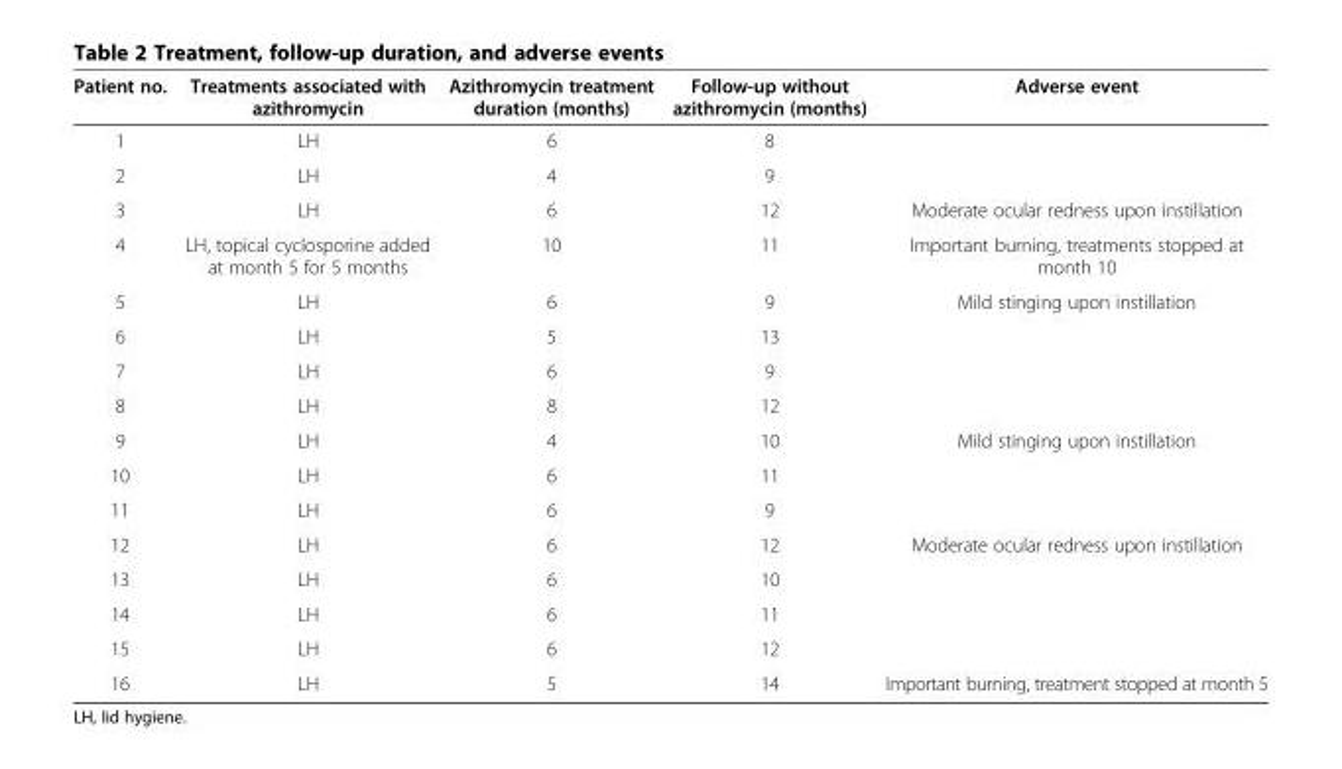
<table><thead><tr><td>Patient no.</td><td>Treatments associated with azithromycin</td><td>Azithromycin treatment duration (months)</td><td>Follow-up without azithromycin (months)</td><td>Adverse event</td></tr></thead><tbody><tr><td>1</td><td>LH</td><td>6</td><td>8</td><td></td></tr><tr><td>2</td><td>LH</td><td>4</td><td>9</td><td></td></tr><tr><td>3</td><td>LH</td><td>6</td><td>12</td><td>Moderate ocular redness upon instillation</td></tr><tr><td>4</td><td>LH, topical cyclosporine added at month 5 for 5 months</td><td>10</td><td>11</td><td>Important burning, treatments stopped at month 10</td></tr><tr><td>5</td><td>LH</td><td>6</td><td>9</td><td>Mild stinging upon instillation</td></tr><tr><td>6</td><td>LH</td><td>5</td><td>13</td><td></td></tr><tr><td>7</td><td>LH</td><td>6</td><td>9</td><td></td></tr><tr><td>8</td><td>LH</td><td>8</td><td>12</td><td></td></tr><tr><td>9</td><td>LH</td><td>4</td><td>10</td><td>Mild stinging upon instillation</td></tr><tr><td>10</td><td>LH</td><td>6</td><td>11</td><td></td></tr><tr><td>11</td><td>LH</td><td>6</td><td>9</td><td></td></tr><tr><td>12</td><td>LH</td><td>6</td><td>12</td><td>Moderate ocular redness upon instillation</td></tr><tr><td>13</td><td>LH</td><td>6</td><td>10</td><td></td></tr><tr><td>14</td><td>LH</td><td>6</td><td>11</td><td></td></tr><tr><td>15</td><td>LH</td><td>6</td><td>12</td><td></td></tr><tr><td>16</td><td>LH</td><td>5</td><td>14</td><td>Important burning, treatment stopped at month 5</td></tr></tbody></table>